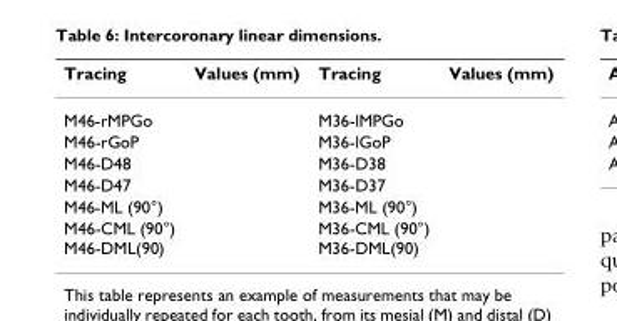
<table><thead><tr><td>Tracing</td><td>Values (mm)</td><td>Tracing</td><td>Values (mm)</td></tr></thead><tbody><tr><td>M46-rMPGo</td><td></td><td>M36-lMPGo</td><td></td></tr><tr><td>M46-rGoP</td><td></td><td>M36-lGoP</td><td></td></tr><tr><td>M46-D48</td><td></td><td>M36-D38</td><td></td></tr><tr><td>M46-D47</td><td></td><td>M36-D37</td><td></td></tr><tr><td>M46-ML (90°)</td><td></td><td>M36-ML (90°)</td><td></td></tr><tr><td>M46-CML (90°) M46-DML(90)</td><td></td><td>M36-CML (90°) M36-DML(90)</td><td></td></tr></tbody></table>